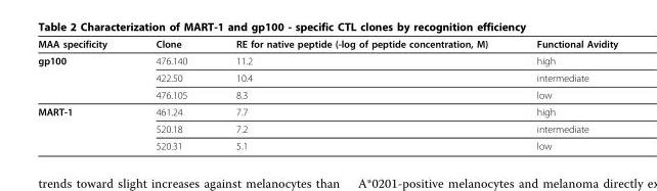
<table><thead><tr><td>MAA specificity</td><td>Clone</td><td>RE for native peptide (-log of peptide concentration, M)</td><td>Functional Avidity</td></tr></thead><tbody><tr><td rowspan="3">gp100</td><td>476.140</td><td>11.2</td><td>high</td></tr><tr><td>422.50</td><td>10.4</td><td>intermediate</td></tr><tr><td>476.105</td><td>8.3</td><td>low</td></tr><tr><td rowspan="3">MART-1</td><td>461.24</td><td>7.7</td><td>high</td></tr><tr><td>520.18</td><td>7.2</td><td>intermediate</td></tr><tr><td>520.31</td><td>5.1</td><td>low</td></tr></tbody></table>